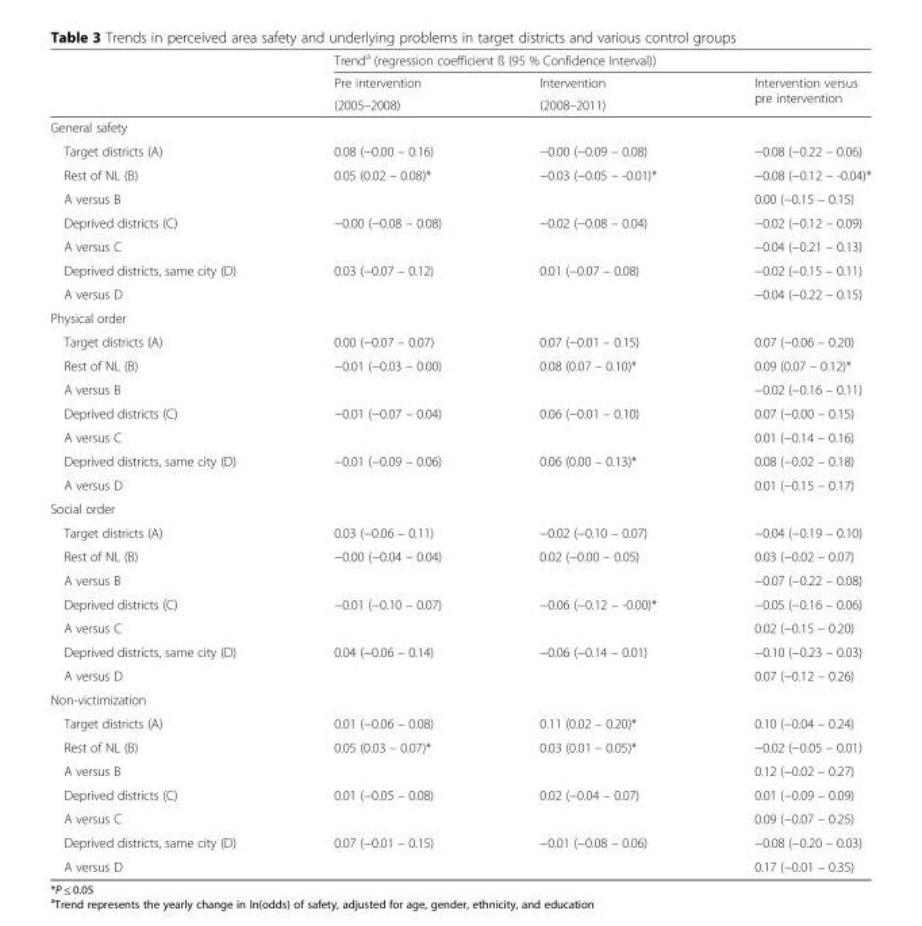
<table><thead><tr><td rowspan="3"></td><td colspan="3">Trend<sup>a</sup> (regression coefficient ß (95 % Confidence Interval))</td></tr><tr><td rowspan="2">Pre intervention (2005–2008)</td><td rowspan="2">Intervention (2008–2011)</td><td rowspan="2">Intervention versus pre intervention</td></tr><tr></tr></thead><tbody><tr><td colspan="4">General safety</td></tr><tr><td>Target districts (A)</td><td>0.08 (−0.00 – 0.16)</td><td>−0.00 (−0.09 – 0.08)</td><td>−0.08 (−0.22 – 0.06)</td></tr><tr><td>Rest of NL (B)</td><td>0.05 (0.02 – 0.08)*</td><td>−0.03 (−0.05 – -0.01)*</td><td>−0.08 (−0.12 – -0.04)*</td></tr><tr><td>A versus B</td><td></td><td></td><td>0.00 (−0.15 – 0.15)</td></tr><tr><td>Deprived districts (C)</td><td>−0.00 (−0.08 – 0.08)</td><td>−0.02 (−0.08 – 0.04)</td><td>−0.02 (−0.12 – 0.09)</td></tr><tr><td>A versus C</td><td></td><td></td><td>−0.04 (−0.21 – 0.13)</td></tr><tr><td>Deprived districts, same city (D)</td><td>0.03 (−0.07 – 0.12)</td><td>0.01 (−0.07 – 0.08)</td><td>−0.02 (−0.15 – 0.11)</td></tr><tr><td>A versus D</td><td></td><td></td><td>−0.04 (−0.22 – 0.15)</td></tr><tr><td colspan="4">Physical order</td></tr><tr><td>Target districts (A)</td><td>0.00 (−0.07 – 0.07)</td><td>0.07 (−0.01 – 0.15)</td><td>0.07 (−0.06 – 0.20)</td></tr><tr><td>Rest of NL (B)</td><td>−0.01 (−0.03 – 0.00)</td><td>0.08 (0.07 – 0.10)*</td><td>0.09 (0.07 – 0.12)*</td></tr><tr><td>A versus B</td><td></td><td></td><td>−0.02 (−0.16 – 0.11)</td></tr><tr><td>Deprived districts (C)</td><td>−0.01 (−0.07 – 0.04)</td><td>0.06 (−0.01 – 0.10)</td><td>0.07 (−0.00 – 0.15)</td></tr><tr><td>A versus C</td><td></td><td></td><td>0.01 (−0.14 – 0.16)</td></tr><tr><td>Deprived districts, same city (D)</td><td>−0.01 (−0.09 – 0.06)</td><td>0.06 (0.00 – 0.13)*</td><td>0.08 (−0.02 – 0.18)</td></tr><tr><td>A versus D</td><td></td><td></td><td>0.01 (−0.15 – 0.17)</td></tr><tr><td colspan="4">Social order</td></tr><tr><td>Target districts (A)</td><td>0.03 (−0.06 – 0.11)</td><td>−0.02 (−0.10 – 0.07)</td><td>−0.04 (−0.19 – 0.10)</td></tr><tr><td>Rest of NL (B)</td><td>−0.00 (−0.04 – 0.04)</td><td>0.02 (−0.00 – 0.05)</td><td>0.03 (−0.02 – 0.07)</td></tr><tr><td>A versus B</td><td></td><td></td><td>−0.07 (−0.22 – 0.08)</td></tr><tr><td>Deprived districts (C)</td><td>−0.01 (−0.10 – 0.07)</td><td>−0.06 (−0.12 – -0.00)*</td><td>−0.05 (−0.16 – 0.06)</td></tr><tr><td>A versus C</td><td></td><td></td><td>0.02 (−0.15 – 0.20)</td></tr><tr><td>Deprived districts, same city (D)</td><td>0.04 (−0.06 – 0.14)</td><td>−0.06 (−0.14 – 0.01)</td><td>−0.10 (−0.23 – 0.03)</td></tr><tr><td>A versus D</td><td></td><td></td><td>0.07 (−0.12 – 0.26)</td></tr><tr><td colspan="4">Non-victimization</td></tr><tr><td>Target districts (A)</td><td>0.01 (−0.06 – 0.08)</td><td>0.11 (0.02 – 0.20)*</td><td>0.10 (−0.04 – 0.24)</td></tr><tr><td>Rest of NL (B)</td><td>0.05 (0.03 – 0.07)*</td><td>0.03 (0.01 – 0.05)*</td><td>−0.02 (−0.05 – 0.01)</td></tr><tr><td>A versus B</td><td></td><td></td><td>0.12 (−0.02 – 0.27)</td></tr><tr><td>Deprived districts (C)</td><td>0.01 (−0.05 – 0.08)</td><td>0.02 (−0.04 – 0.07)</td><td>0.01 (−0.09 – 0.09)</td></tr><tr><td>A versus C</td><td></td><td></td><td>0.09 (−0.07 – 0.25)</td></tr><tr><td>Deprived districts, same city (D)</td><td>0.07 (−0.01 – 0.15)</td><td>−0.01 (−0.08 – 0.06)</td><td>−0.08 (−0.20 – 0.03)</td></tr><tr><td>A versus D</td><td></td><td></td><td>0.17 (−0.01 – 0.35)</td></tr></tbody></table>